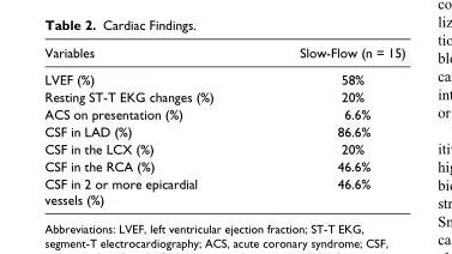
<table><thead><tr><td>Variables</td><td>Slow-Flow (n = 15)</td></tr></thead><tbody><tr><td>LVEF (%)</td><td>58%</td></tr><tr><td>Resting ST-T EKG changes (%)</td><td>20%</td></tr><tr><td>ACS on presentation (%)</td><td>6.6%</td></tr><tr><td>CSF in LAD (%)</td><td>86.6%</td></tr><tr><td>CSF in the LCX (%)</td><td>20%</td></tr><tr><td>CSF in the RCA (%)</td><td>46.6%</td></tr><tr><td>CSF in 2 or more epicardial vessels (%)</td><td>46.6%</td></tr></tbody></table>